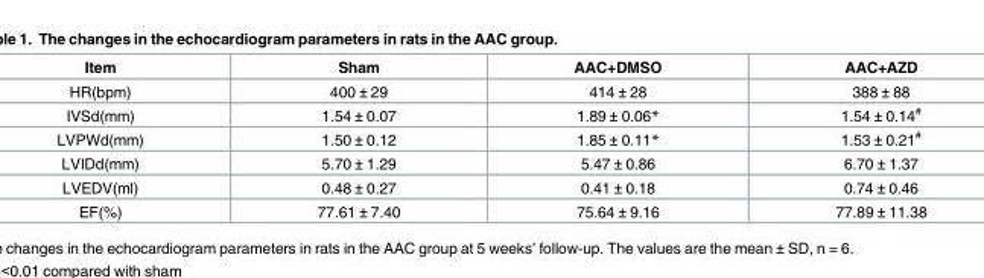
<table><thead><tr><td>Item</td><td>Sham</td><td>AAC+DMSO</td><td>AAC+AZD</td></tr></thead><tbody><tr><td>HR(bpm)</td><td>400 ± 29</td><td>414 ± 28</td><td>388 ± 88</td></tr><tr><td>IVSd(mm)</td><td>1.54 ± 0.07</td><td>1.89 ± 0.06*</td><td>1.54 ± 0.14<sup>#</sup></td></tr><tr><td>LVPWd(mm)</td><td>1.50 ± 0.12</td><td>1.85 ± 0.11*</td><td>1.53 ± 0.21<sup>#</sup></td></tr><tr><td>LVIDd(mm)</td><td>5.70 ± 1.29</td><td>5.47 ± 0.86</td><td>6.70 ± 1.37</td></tr><tr><td>LVEDV(ml)</td><td>0.48 ± 0.27</td><td>0.41 ± 0.18</td><td>0.74 ± 0.46</td></tr><tr><td>EF(%)</td><td>77.61 ± 7.40</td><td>75.64 ± 9.16</td><td>77.89 ± 11.38</td></tr></tbody></table>